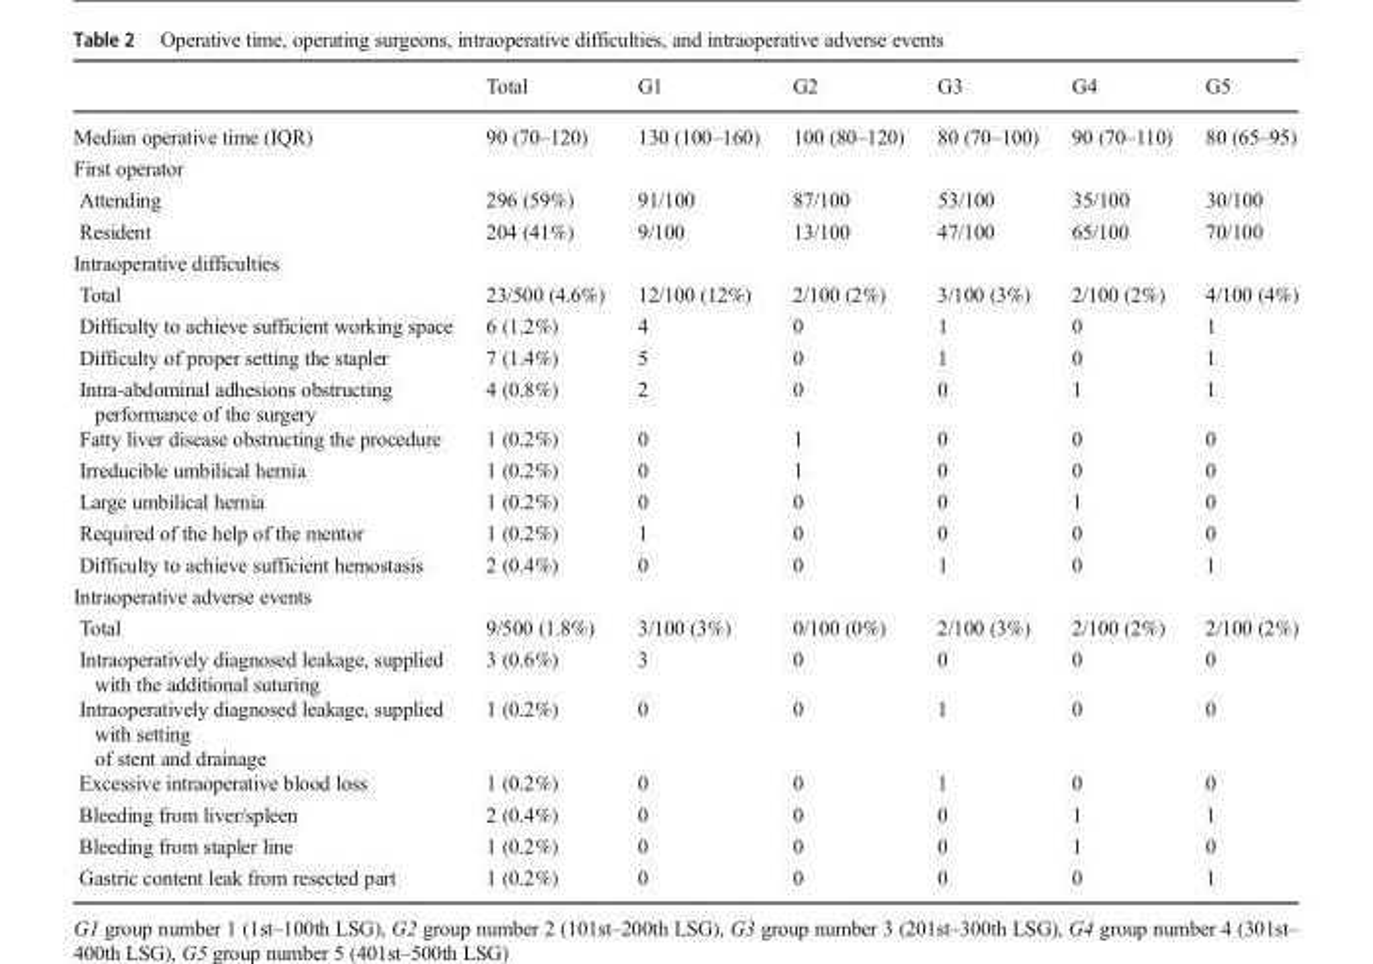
<table><thead><tr><td></td><td>Total</td><td>G1</td><td>G2</td><td>G3</td><td>G4</td><td>G5</td></tr></thead><tbody><tr><td>Median operative time (IQR)</td><td>90 (70–120)</td><td>130 (100–160)</td><td>100 (80–120)</td><td>80 (70–100)</td><td>90 (70–110)</td><td>80 (65–95)</td></tr><tr><td colspan="7">First operator</td></tr><tr><td>Attending</td><td>296 (59%)</td><td>91/100</td><td>87/100</td><td>53/100</td><td>35/100</td><td>30/100</td></tr><tr><td>Resident</td><td>204 (41%)</td><td>9/100</td><td>13/100</td><td>47/100</td><td>65/100</td><td>70/100</td></tr><tr><td colspan="7">Intraoperative difficulties</td></tr><tr><td>Total</td><td>23/500 (4.6%)</td><td>12/100 (12%)</td><td>2/100 (2%)</td><td>3/100 (3%)</td><td>2/100 (2%)</td><td>4/100 (4%)</td></tr><tr><td>Difficulty to achieve sufficient working space</td><td>6 (1.2%)</td><td>4</td><td>0</td><td>1</td><td>0</td><td>1</td></tr><tr><td>Difficulty of proper setting the stapler</td><td>7 (1.4%)</td><td>5</td><td>0</td><td>1</td><td>0</td><td>1</td></tr><tr><td>Intra-abdominal adhesions obstructing performance of the surgery</td><td>4 (0.8%)</td><td>2</td><td>0</td><td>0</td><td>1</td><td>1</td></tr><tr><td>Fatty liver disease obstructing the procedure</td><td>1 (0.2%)</td><td>0</td><td>1</td><td>0</td><td>0</td><td>0</td></tr><tr><td>Irreducible umbilical hernia</td><td>1 (0.2%)</td><td>0</td><td>1</td><td>0</td><td>0</td><td>0</td></tr><tr><td>Large umbilical hernia</td><td>1 (0.2%)</td><td>0</td><td>0</td><td>0</td><td>1</td><td>0</td></tr><tr><td>Required of the help of the mentor</td><td>1 (0.2%)</td><td>1</td><td>0</td><td>0</td><td>0</td><td>0</td></tr><tr><td>Difficulty to achieve sufficient hemostasis</td><td>2 (0.4%)</td><td>0</td><td>0</td><td>1</td><td>0</td><td>1</td></tr><tr><td colspan="7">Intraoperative adverse events</td></tr><tr><td>Total</td><td>9/500 (1.8%)</td><td>3/100 (3%)</td><td>0/100 (0%)</td><td>2/100 (3%)</td><td>2/100 (2%)</td><td>2/100 (2%)</td></tr><tr><td>Intraoperatively diagnosed leakage, supplied with the additional suturing</td><td>3 (0.6%)</td><td>3</td><td>0</td><td>0</td><td>0</td><td>0</td></tr><tr><td>Intraoperatively diagnosed leakage, supplied with setting of stent and drainage</td><td>1 (0.2%)</td><td>0</td><td>0</td><td>1</td><td>0</td><td>0</td></tr><tr><td>Excessive intraoperative blood loss</td><td>1 (0.2%)</td><td>0</td><td>0</td><td>1</td><td>0</td><td>0</td></tr><tr><td>Bleeding from liver/spleen</td><td>2 (0.4%)</td><td>0</td><td>0</td><td>0</td><td>1</td><td>1</td></tr><tr><td>Bleeding from stapler line</td><td>1 (0.2%)</td><td>0</td><td>0</td><td>0</td><td>1</td><td>0</td></tr><tr><td>Gastric content leak from resected part</td><td>1 (0.2%)</td><td>0</td><td>0</td><td>0</td><td>0</td><td>1</td></tr></tbody></table>